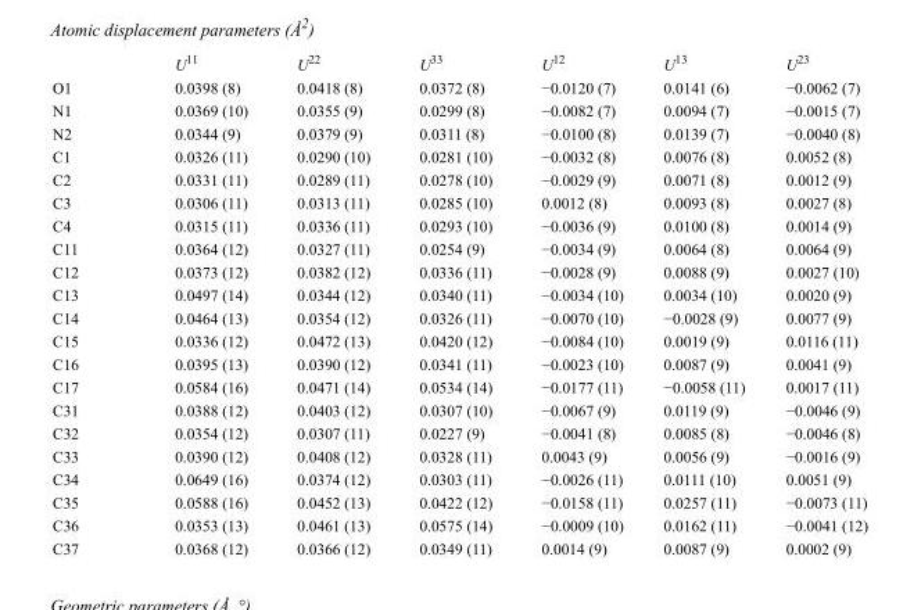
<table><thead><tr><td></td><td>U<sup>11</sup></td><td>U<sup>22</sup></td><td>U<sup>33</sup></td><td>U<sup>12</sup></td><td>U<sup>13</sup></td><td>U<sup>23</sup></td></tr></thead><tbody><tr><td>O1</td><td>0.0398 (8)</td><td>0.0418 (8)</td><td>0.0372 (8)</td><td>−0.0120 (7)</td><td>0.0141 (6)</td><td>−0.0062 (7)</td></tr><tr><td>N1</td><td>0.0369 (10)</td><td>0.0355 (9)</td><td>0.0299 (8)</td><td>−0.0082 (7)</td><td>0.0094 (7)</td><td>−0.0015 (7)</td></tr><tr><td>N2</td><td>0.0344 (9)</td><td>0.0379 (9)</td><td>0.0311 (8)</td><td>−0.0100 (8)</td><td>0.0139 (7)</td><td>−0.0040 (8)</td></tr><tr><td>C1</td><td>0.0326 (11)</td><td>0.0290 (10)</td><td>0.0281 (10)</td><td>−0.0032 (8)</td><td>0.0076 (8)</td><td>0.0052 (8)</td></tr><tr><td>C2</td><td>0.0331 (11)</td><td>0.0289 (11)</td><td>0.0278 (10)</td><td>−0.0029 (9)</td><td>0.0071 (8)</td><td>0.0012 (9)</td></tr><tr><td>C3</td><td>0.0306 (11)</td><td>0.0313 (11)</td><td>0.0285 (10)</td><td>0.0012 (8)</td><td>0.0093 (8)</td><td>0.0027 (8)</td></tr><tr><td>C4</td><td>0.0315 (11)</td><td>0.0336 (11)</td><td>0.0293 (10)</td><td>−0.0036 (9)</td><td>0.0100 (8)</td><td>0.0014 (9)</td></tr><tr><td>C11</td><td>0.0364 (12)</td><td>0.0327 (11)</td><td>0.0254 (9)</td><td>−0.0034 (9)</td><td>0.0064 (8)</td><td>0.0064 (9)</td></tr><tr><td>C12</td><td>0.0373 (12)</td><td>0.0382 (12)</td><td>0.0336 (11)</td><td>−0.0028 (9)</td><td>0.0088 (9)</td><td>0.0027 (10)</td></tr><tr><td>C13</td><td>0.0497 (14)</td><td>0.0344 (12)</td><td>0.0340 (11)</td><td>−0.0034 (10)</td><td>0.0034 (10)</td><td>0.0020 (9)</td></tr><tr><td>C14</td><td>0.0464 (13)</td><td>0.0354 (12)</td><td>0.0326 (11)</td><td>−0.0070 (10)</td><td>−0.0028 (9)</td><td>0.0077 (9)</td></tr><tr><td>C15</td><td>0.0336 (12)</td><td>0.0472 (13)</td><td>0.0420 (12)</td><td>−0.0084 (10)</td><td>0.0019 (9)</td><td>0.0116 (11)</td></tr><tr><td>C16</td><td>0.0395 (13)</td><td>0.0390 (12)</td><td>0.0341 (11)</td><td>−0.0023 (10)</td><td>0.0087 (9)</td><td>0.0041 (9)</td></tr><tr><td>C17</td><td>0.0584 (16)</td><td>0.0471 (14)</td><td>0.0534 (14)</td><td>−0.0177 (11)</td><td>−0.0058 (11)</td><td>0.0017 (11)</td></tr><tr><td>C31</td><td>0.0388 (12)</td><td>0.0403 (12)</td><td>0.0307 (10)</td><td>−0.0067 (9)</td><td>0.0119 (9)</td><td>−0.0046 (9)</td></tr><tr><td>C32</td><td>0.0354 (12)</td><td>0.0307 (11)</td><td>0.0227 (9)</td><td>−0.0041 (8)</td><td>0.0085 (8)</td><td>−0.0046 (8)</td></tr><tr><td>C33</td><td>0.0390 (12)</td><td>0.0408 (12)</td><td>0.0328 (11)</td><td>0.0043 (9)</td><td>0.0056 (9)</td><td>−0.0016 (9)</td></tr><tr><td>C34</td><td>0.0649 (16)</td><td>0.0374 (12)</td><td>0.0303 (11)</td><td>−0.0026 (11)</td><td>0.0111 (10)</td><td>0.0051 (9)</td></tr><tr><td>C35</td><td>0.0588 (16)</td><td>0.0452 (13)</td><td>0.0422 (12)</td><td>−0.0158 (11)</td><td>0.0257 (11)</td><td>−0.0073 (11)</td></tr><tr><td>C36</td><td>0.0353 (13)</td><td>0.0461 (13)</td><td>0.0575 (14)</td><td>−0.0009 (10)</td><td>0.0162 (11)</td><td>−0.0041 (12)</td></tr><tr><td>C37</td><td>0.0368 (12)</td><td>0.0366 (12)</td><td>0.0349 (11)</td><td>0.0014 (9)</td><td>0.0087 (9)</td><td>0.0002 (9)</td></tr></tbody></table>